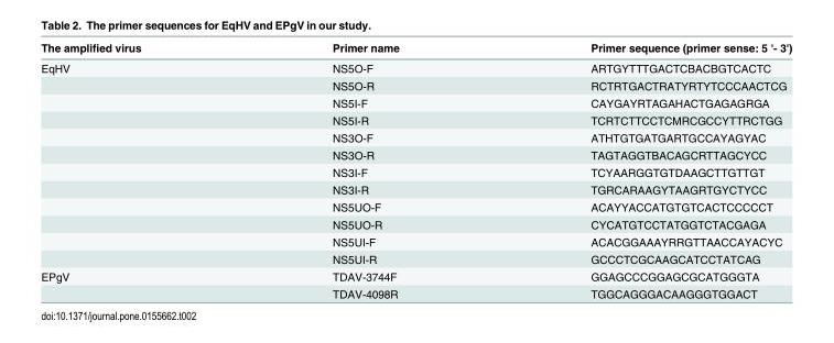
<table><thead><tr><td>The amplified virus</td><td>Primer name</td><td>Primer sequence (primer sense: 5 &#x27;- 3&#x27;)</td></tr></thead><tbody><tr><td rowspan="12">EqHV</td><td>NS5O-F</td><td>ARTGYTTTGACTCBACBGTCACTC</td></tr><tr><td>NS5O-R</td><td>RCTRTGACTRATYRTYTCCCAACTCG</td></tr><tr><td>NS5I-F</td><td>CAYGAYRTAGAHACTGAGAGRGA</td></tr><tr><td>NS5I-R</td><td>TCRTCTTCCTCMRCGCCYTTRCTGG</td></tr><tr><td>NS3O-F</td><td>ATHTGTGATGARTGCCAYAGYAC</td></tr><tr><td>NS3O-R</td><td>TAGTAGGTBACAGCRTTAGCYCC</td></tr><tr><td>NS3I-F</td><td>TCYAARGGTGTDAAGCTTGTTGT</td></tr><tr><td>NS3I-R</td><td>TGRCARAAGYTAAGRTGYCTYCC</td></tr><tr><td>NS5UO-F</td><td>ACAYYACCATGTGTCACTCCCCCT</td></tr><tr><td>NS5UO-R</td><td>CYCATGTCCTATGGTCTACGAGA</td></tr><tr><td>NS5UI-F</td><td>ACACGGAAAYRRGTTAACCAYACYC</td></tr><tr><td>NS5UI-R</td><td>GCCCTCGCAAGCATCCTATCAG</td></tr><tr><td rowspan="2">EPgV</td><td>TDAV-3744F</td><td>GGAGCCCGGAGCGCATGGGTA</td></tr><tr><td>TDAV-4098R</td><td>TGGCAGGGACAAGGGTGGACT</td></tr></tbody></table>